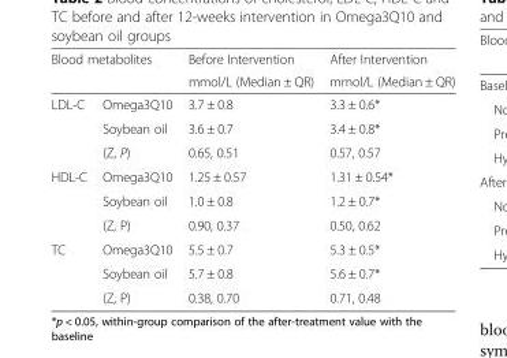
<table><thead><tr><td colspan="2">Blood metabolites</td><td rowspan="2">Before Intervention mmol/L (Median ± QR)</td><td rowspan="2">After Intervention mmol/L (Median ± QR)</td></tr><tr><td></td><td></td></tr></thead><tbody><tr><td rowspan="3">LDL-C</td><td>Omega3Q10</td><td>3.7 ± 0.8</td><td>3.3 ± 0.6*</td></tr><tr><td>Soybean oil</td><td>3.6 ± 0.7</td><td>3.4 ± 0.8*</td></tr><tr><td>(Z, P)</td><td>0.65, 0.51</td><td>0.57, 0.57</td></tr><tr><td rowspan="3">HDL-C</td><td>Omega3Q10</td><td>1.25 ± 0.57</td><td>1.31 ± 0.54*</td></tr><tr><td>Soybean oil</td><td>1.0 ± 0.8</td><td>1.2 ± 0.7*</td></tr><tr><td>(Z, P)</td><td>0.90, 0.37</td><td>0.50, 0.62</td></tr><tr><td rowspan="3">TC</td><td>Omega3Q10</td><td>5.5 ± 0.7</td><td>5.3 ± 0.5*</td></tr><tr><td>Soybean oil</td><td>5.7 ± 0.8</td><td>5.6 ± 0.7*</td></tr><tr><td>(Z, P)</td><td>0.38, 0.70</td><td>0.71, 0.48</td></tr></tbody></table>